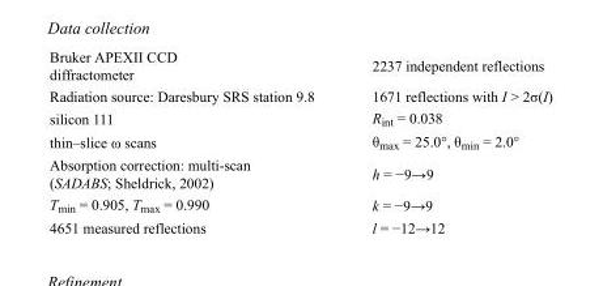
<table><tbody><tr><td>Bruker APEXII CCD diffractometer</td><td>2237 independent reflections</td></tr><tr><td>Radiation source: Daresbury SRS station 9.8</td><td>1671 reflections with I &gt; 2σ(I)</td></tr><tr><td>silicon 111</td><td>R<sub>int</sub> = 0.038</td></tr><tr><td>thin–slice ω scans</td><td>θ<sub>max</sub> = 25.0°, θ<sub>min</sub> = 2.0°</td></tr><tr><td>Absorption correction: multi-scan (SADABS; Sheldrick, 2002)</td><td>h = −9→9</td></tr><tr><td>T<sub>min</sub> = 0.905, T<sub>max</sub> = 0.990</td><td>k = −9→9</td></tr><tr><td>4651 measured reflections</td><td>l = −12→12</td></tr></tbody></table>